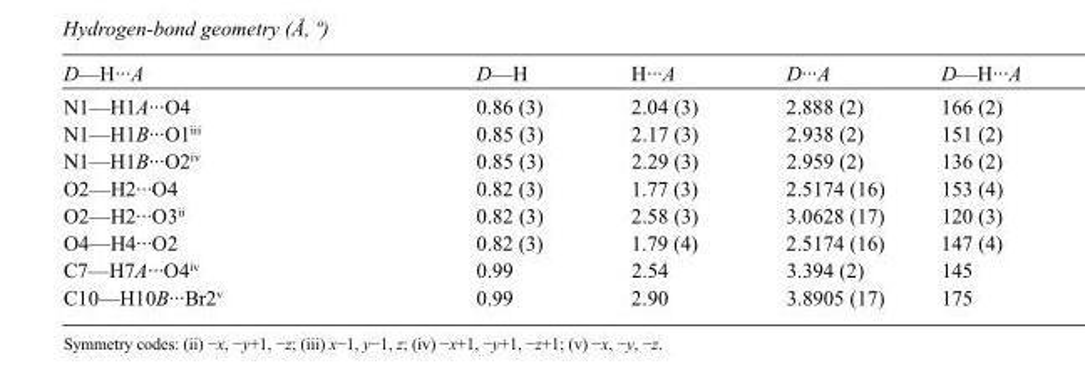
<table><tbody><tr><td>D—H···A</td><td>D—H</td><td>H···A</td><td>D···A</td><td>D—H···A</td></tr><tr><td>N1—H1A···O4</td><td>0.86 (3)</td><td>2.04 (3)</td><td>2.888 (2)</td><td>166 (2)</td></tr><tr><td>N1—H1B···O1<sup>iii</sup></td><td>0.85 (3)</td><td>2.17 (3)</td><td>2.938 (2)</td><td>151 (2)</td></tr><tr><td>N1—H1B···O2<sup>iv</sup></td><td>0.85 (3)</td><td>2.29 (3)</td><td>2.959 (2)</td><td>136 (2)</td></tr><tr><td>O2—H2···O4</td><td>0.82 (3)</td><td>1.77 (3)</td><td>2.5174 (16)</td><td>153 (4)</td></tr><tr><td>O2—H2···O3<sup>ii</sup></td><td>0.82 (3)</td><td>2.58 (3)</td><td>3.0628 (17)</td><td>120 (3)</td></tr><tr><td>O4—H4···O2</td><td>0.82 (3)</td><td>1.79 (4)</td><td>2.5174 (16)</td><td>147 (4)</td></tr><tr><td>C7—H7A···O4<sup>iv</sup></td><td>0.99</td><td>2.54</td><td>3.394 (2)</td><td>145</td></tr><tr><td>C10—H10B···Br2<sup>v</sup></td><td>0.99</td><td>2.90</td><td>3.8905 (17)</td><td>175</td></tr></tbody></table>